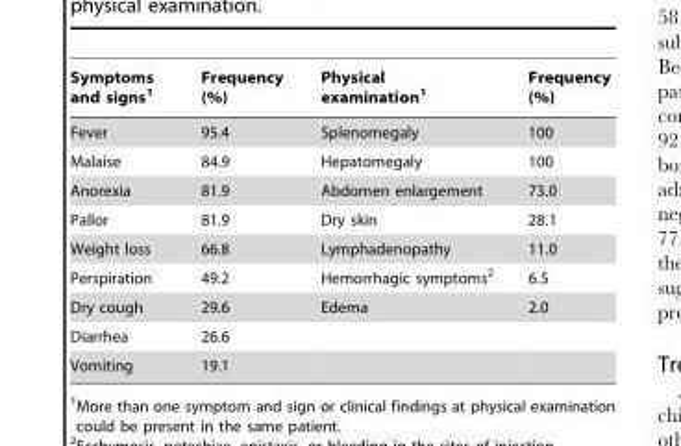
<table><thead><tr><td>Symptoms and signs<sup>1</sup></td><td>Frequency (%)</td><td>Physical examination<sup>1</sup></td><td>Frequency (%)</td></tr></thead><tbody><tr><td>Fever</td><td>95.4</td><td>Splenomegaly</td><td>100</td></tr><tr><td>Malaise</td><td>84.9</td><td>Hepatomegaly</td><td>100</td></tr><tr><td>Anorexia</td><td>81.9</td><td>Abdomen enlargement</td><td>73.0</td></tr><tr><td>Pallor</td><td>81.9</td><td>Dry skin</td><td>28.1</td></tr><tr><td>Weight loss</td><td>66.8</td><td>Lymphadenopathy</td><td>11.0</td></tr><tr><td>Perspiration</td><td>49.2</td><td>Hemorrhagic symptoms<sup>2</sup></td><td>6.5</td></tr><tr><td>Dry cough</td><td>29.6</td><td>Edema</td><td>2.0</td></tr><tr><td>Diarrhea</td><td>26.6</td><td></td><td></td></tr><tr><td>Vomiting</td><td>19.1</td><td></td><td></td></tr></tbody></table>